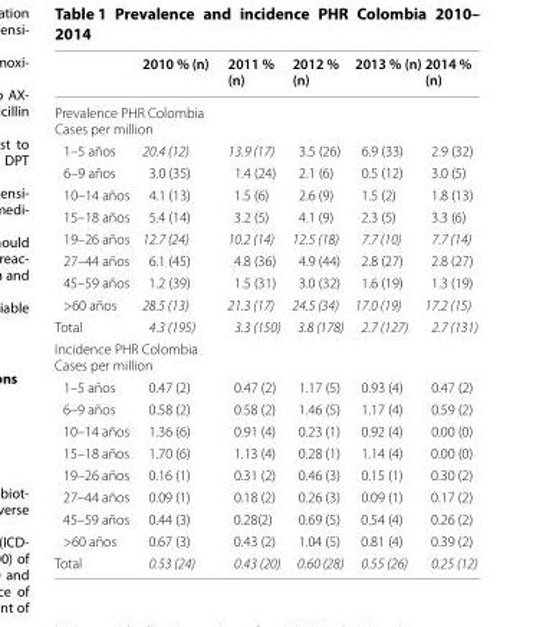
<table><thead><tr><td></td><td>2010 % (n)</td><td>2011 % (n)</td><td>2012 % (n)</td><td>2013 % (n)</td><td>2014 % (n)</td></tr></thead><tbody><tr><td colspan="6">Prevalence PHR Colombia Cases per million</td></tr><tr><td>1–5 años</td><td>20.4 (12)</td><td>13.9 (17)</td><td>3.5 (26)</td><td>6.9 (33)</td><td>2.9 (32)</td></tr><tr><td>6–9 años</td><td>3.0 (35)</td><td>1.4 (24)</td><td>2.1 (6)</td><td>0.5 (12)</td><td>3.0 (5)</td></tr><tr><td>10–14 años</td><td>4.1 (13)</td><td>1.5 (6)</td><td>2.6 (9)</td><td>1.5 (2)</td><td>1.8 (13)</td></tr><tr><td>15–18 años</td><td>5.4 (14)</td><td>3.2 (5)</td><td>4.1 (9)</td><td>2.3 (5)</td><td>3.3 (6)</td></tr><tr><td>19–26 años</td><td>12.7 (24)</td><td>10.2 (14)</td><td>12.5 (18)</td><td>7.7 (10)</td><td>7.7 (14)</td></tr><tr><td>27–44 años</td><td>6.1 (45)</td><td>4.8 (36)</td><td>4.9 (44)</td><td>2.8 (27)</td><td>2.8 (27)</td></tr><tr><td>45–59 años</td><td>1.2 (39)</td><td>1.5 (31)</td><td>3.0 (32)</td><td>1.6 (19)</td><td>1.3 (19)</td></tr><tr><td>&gt;60 años</td><td>28.5 (13)</td><td>21.3 (17)</td><td>24.5 (34)</td><td>17.0 (19)</td><td>17.2 (15)</td></tr><tr><td>Total</td><td>4.3 (195)</td><td>3.3 (150)</td><td>3.8 (178)</td><td>2.7 (127)</td><td>2.7 (131)</td></tr><tr><td colspan="6">Incidence PHR Colombia Cases per million</td></tr><tr><td>1–5 años</td><td>0.47 (2)</td><td>0.47 (2)</td><td>1.17 (5)</td><td>0.93 (4)</td><td>0.47 (2)</td></tr><tr><td>6–9 años</td><td>0.58 (2)</td><td>0.58 (2)</td><td>1.46 (5)</td><td>1.17 (4)</td><td>0.59 (2)</td></tr><tr><td>10–14 años</td><td>1.36 (6)</td><td>0.91 (4)</td><td>0.23 (1)</td><td>0.92 (4)</td><td>0.00 (0)</td></tr><tr><td>15–18 años</td><td>1.70 (6)</td><td>1.13 (4)</td><td>0.28 (1)</td><td>1.14 (4)</td><td>0.00 (0)</td></tr><tr><td>19–26 años</td><td>0.16 (1)</td><td>0.31 (2)</td><td>0.46 (3)</td><td>0.15 (1)</td><td>0.30 (2)</td></tr><tr><td>27–44 años</td><td>0.09 (1)</td><td>0.18 (2)</td><td>0.26 (3)</td><td>0.09 (1)</td><td>0.17 (2)</td></tr><tr><td>45–59 años</td><td>0.44 (3)</td><td>0.28(2)</td><td>0.69 (5)</td><td>0.54 (4)</td><td>0.26 (2)</td></tr><tr><td>&gt;60 años</td><td>0.67 (3)</td><td>0.43 (2)</td><td>1.04 (5)</td><td>0.81 (4)</td><td>0.39 (2)</td></tr><tr><td>Total</td><td>0.53 (24)</td><td>0.43 (20)</td><td>0.60 (28)</td><td>0.55 (26)</td><td>0.25 (12)</td></tr></tbody></table>